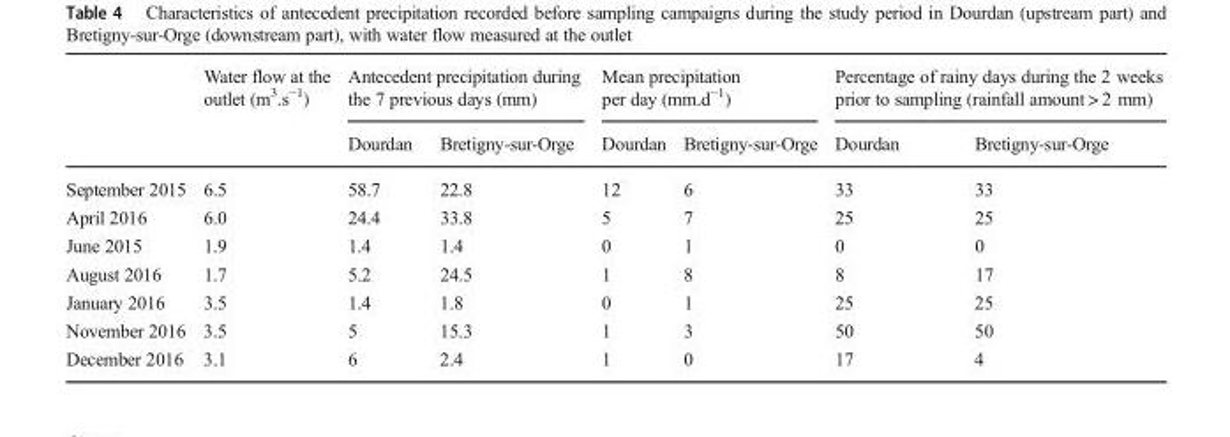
<table><thead><tr><td rowspan="2"></td><td rowspan="2">Water flow at the outlet (m<sup>3</sup>.s<sup>−1</sup>)</td><td colspan="2">Antecedent precipitation during the 7 previous days (mm)</td><td colspan="2">Mean precipitation per day (mm.d<sup>−1</sup>)</td><td colspan="2">Percentage of rainy days during the 2 weeks prior to sampling (rainfall amount &gt; 2 mm)</td></tr><tr><td>Dourdan</td><td>Bretigny-sur-Orge</td><td>Dourdan</td><td>Bretigny-sur-Orge</td><td>Dourdan</td><td>Bretigny-sur-Orge</td></tr></thead><tbody><tr><td>September 2015</td><td>6.5</td><td>58.7</td><td>22.8</td><td>12</td><td>6</td><td>33</td><td>33</td></tr><tr><td>April 2016</td><td>6.0</td><td>24.4</td><td>33.8</td><td>5</td><td>7</td><td>25</td><td>25</td></tr><tr><td>June 2015</td><td>1.9</td><td>1.4</td><td>1.4</td><td>0</td><td>1</td><td>0</td><td>0</td></tr><tr><td>August 2016</td><td>1.7</td><td>5.2</td><td>24.5</td><td>1</td><td>8</td><td>8</td><td>17</td></tr><tr><td>January 2016</td><td>3.5</td><td>1.4</td><td>1.8</td><td>0</td><td>1</td><td>25</td><td>25</td></tr><tr><td>November 2016</td><td>3.5</td><td>5</td><td>15.3</td><td>1</td><td>3</td><td>50</td><td>50</td></tr><tr><td>December 2016</td><td>3.1</td><td>6</td><td>2.4</td><td>1</td><td>0</td><td>17</td><td>4</td></tr></tbody></table>